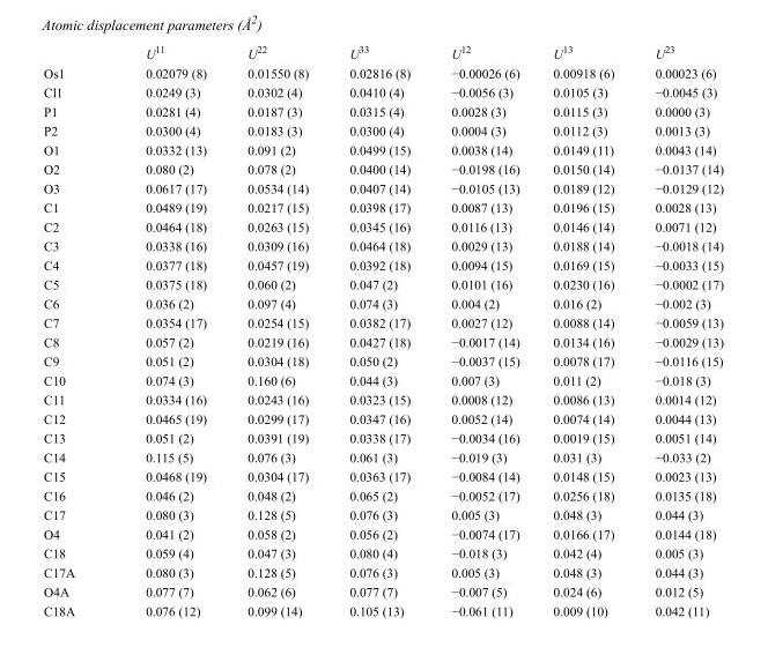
<table><thead><tr><td></td><td>U<sup>11</sup></td><td>U<sup>22</sup></td><td>U<sup>33</sup></td><td>U<sup>12</sup></td><td>U<sup>13</sup></td><td>U<sup>23</sup></td></tr></thead><tbody><tr><td>Os1</td><td>0.02079 (8)</td><td>0.01550 (8)</td><td>0.02816 (8)</td><td>−0.00026 (6)</td><td>0.00918 (6)</td><td>0.00023 (6)</td></tr><tr><td>Cl1</td><td>0.0249 (3)</td><td>0.0302 (4)</td><td>0.0410 (4)</td><td>−0.0056 (3)</td><td>0.0105 (3)</td><td>−0.0045 (3)</td></tr><tr><td>P1</td><td>0.0281 (4)</td><td>0.0187 (3)</td><td>0.0315 (4)</td><td>0.0028 (3)</td><td>0.0115 (3)</td><td>0.0000 (3)</td></tr><tr><td>P2</td><td>0.0300 (4)</td><td>0.0183 (3)</td><td>0.0300 (4)</td><td>0.0004 (3)</td><td>0.0112 (3)</td><td>0.0013 (3)</td></tr><tr><td>O1</td><td>0.0332 (13)</td><td>0.091 (2)</td><td>0.0499 (15)</td><td>0.0038 (14)</td><td>0.0149 (11)</td><td>0.0043 (14)</td></tr><tr><td>O2</td><td>0.080 (2)</td><td>0.078 (2)</td><td>0.0400 (14)</td><td>−0.0198 (16)</td><td>0.0150 (14)</td><td>−0.0137 (14)</td></tr><tr><td>O3</td><td>0.0617 (17)</td><td>0.0534 (14)</td><td>0.0407 (14)</td><td>−0.0105 (13)</td><td>0.0189 (12)</td><td>−0.0129 (12)</td></tr><tr><td>C1</td><td>0.0489 (19)</td><td>0.0217 (15)</td><td>0.0398 (17)</td><td>0.0087 (13)</td><td>0.0196 (15)</td><td>0.0028 (13)</td></tr><tr><td>C2</td><td>0.0464 (18)</td><td>0.0263 (15)</td><td>0.0345 (16)</td><td>0.0116 (13)</td><td>0.0146 (14)</td><td>0.0071 (12)</td></tr><tr><td>C3</td><td>0.0338 (16)</td><td>0.0309 (16)</td><td>0.0464 (18)</td><td>0.0029 (13)</td><td>0.0188 (14)</td><td>−0.0018 (14)</td></tr><tr><td>C4</td><td>0.0377 (18)</td><td>0.0457 (19)</td><td>0.0392 (18)</td><td>0.0094 (15)</td><td>0.0169 (15)</td><td>−0.0033 (15)</td></tr><tr><td>C5</td><td>0.0375 (18)</td><td>0.060 (2)</td><td>0.047 (2)</td><td>0.0101 (16)</td><td>0.0230 (16)</td><td>−0.0002 (17)</td></tr><tr><td>C6</td><td>0.036 (2)</td><td>0.097 (4)</td><td>0.074 (3)</td><td>0.004 (2)</td><td>0.016 (2)</td><td>−0.002 (3)</td></tr><tr><td>C7</td><td>0.0354 (17)</td><td>0.0254 (15)</td><td>0.0382 (17)</td><td>0.0027 (12)</td><td>0.0088 (14)</td><td>−0.0059 (13)</td></tr><tr><td>C8</td><td>0.057 (2)</td><td>0.0219 (16)</td><td>0.0427 (18)</td><td>−0.0017 (14)</td><td>0.0134 (16)</td><td>−0.0029 (13)</td></tr><tr><td>C9</td><td>0.051 (2)</td><td>0.0304 (18)</td><td>0.050 (2)</td><td>−0.0037 (15)</td><td>0.0078 (17)</td><td>−0.0116 (15)</td></tr><tr><td>C10</td><td>0.074 (3)</td><td>0.160 (6)</td><td>0.044 (3)</td><td>0.007 (3)</td><td>0.011 (2)</td><td>−0.018 (3)</td></tr><tr><td>C11</td><td>0.0334 (16)</td><td>0.0243 (16)</td><td>0.0323 (15)</td><td>0.0008 (12)</td><td>0.0086 (13)</td><td>0.0014 (12)</td></tr><tr><td>C12</td><td>0.0465 (19)</td><td>0.0299 (17)</td><td>0.0347 (16)</td><td>0.0052 (14)</td><td>0.0074 (14)</td><td>0.0044 (13)</td></tr><tr><td>C13</td><td>0.051 (2)</td><td>0.0391 (19)</td><td>0.0338 (17)</td><td>−0.0034 (16)</td><td>0.0019 (15)</td><td>0.0051 (14)</td></tr><tr><td>C14</td><td>0.115 (5)</td><td>0.076 (3)</td><td>0.061 (3)</td><td>−0.019 (3)</td><td>0.031 (3)</td><td>−0.033 (2)</td></tr><tr><td>C15</td><td>0.0468 (19)</td><td>0.0304 (17)</td><td>0.0363 (17)</td><td>−0.0084 (14)</td><td>0.0148 (15)</td><td>0.0023 (13)</td></tr><tr><td>C16</td><td>0.046 (2)</td><td>0.048 (2)</td><td>0.065 (2)</td><td>−0.0052 (17)</td><td>0.0256 (18)</td><td>0.0135 (18)</td></tr><tr><td>C17</td><td>0.080 (3)</td><td>0.128 (5)</td><td>0.076 (3)</td><td>0.005 (3)</td><td>0.048 (3)</td><td>0.044 (3)</td></tr><tr><td>O4</td><td>0.041 (2)</td><td>0.058 (2)</td><td>0.056 (2)</td><td>−0.0074 (17)</td><td>0.0166 (17)</td><td>0.0144 (18)</td></tr><tr><td>C18</td><td>0.059 (4)</td><td>0.047 (3)</td><td>0.080 (4)</td><td>−0.018 (3)</td><td>0.042 (4)</td><td>0.005 (3)</td></tr><tr><td>C17A</td><td>0.080 (3)</td><td>0.128 (5)</td><td>0.076 (3)</td><td>0.005 (3)</td><td>0.048 (3)</td><td>0.044 (3)</td></tr><tr><td>O4A</td><td>0.077 (7)</td><td>0.062 (6)</td><td>0.077 (7)</td><td>−0.007 (5)</td><td>0.024 (6)</td><td>0.012 (5)</td></tr><tr><td>C18A</td><td>0.076 (12)</td><td>0.099 (14)</td><td>0.105 (13)</td><td>−0.061 (11)</td><td>0.009 (10)</td><td>0.042 (11)</td></tr></tbody></table>